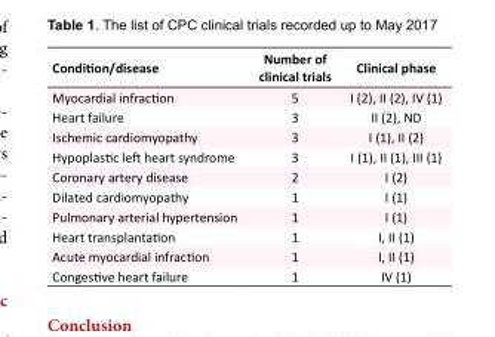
<table><tbody><tr><td>Condition/disease</td><td>Number of clinical trials</td><td>Clinical phase</td></tr><tr><td>Myocardial infraction</td><td>5</td><td>I (2), II (2), IV (1)</td></tr><tr><td>Heart failure</td><td>3</td><td>II (2), ND</td></tr><tr><td>Ischemic cardiomyopathy</td><td>3</td><td>I (1), II (2)</td></tr><tr><td>Hypoplastic left heart syndrome</td><td>3</td><td>I (1), II (1), III (1)</td></tr><tr><td>Coronary artery disease</td><td>2</td><td>I (2)</td></tr><tr><td>Dilated cardiomyopathy</td><td>1</td><td>I (1)</td></tr><tr><td>Pulmonary arterial hypertension</td><td>1</td><td>I (1)</td></tr><tr><td>Heart transplantation</td><td>1</td><td>I, II (1)</td></tr><tr><td>Acute myocardial infraction</td><td>1</td><td>I, II (1)</td></tr><tr><td>Congestive heart failure</td><td>1</td><td>IV (1)</td></tr></tbody></table>